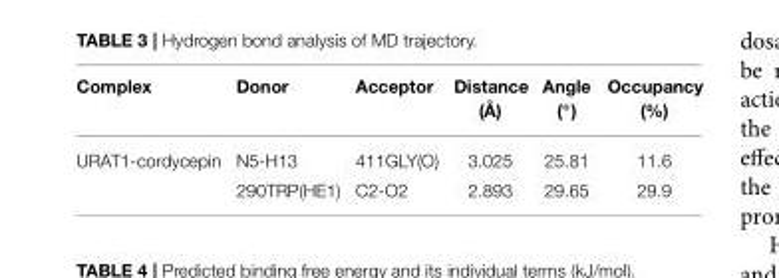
<table><thead><tr><td>Complex</td><td>Donor</td><td>Acceptor</td><td>Distance (Å)</td><td>Angle (◦)</td><td>Occupancy (%)</td></tr></thead><tbody><tr><td rowspan="2">URAT1-cordycepin</td><td>N5-H13</td><td>411GLY(O)</td><td>3.025</td><td>25.81</td><td>11.6</td></tr><tr><td>290TRP(HE1)</td><td>C2-O2</td><td>2.893</td><td>29.65</td><td>29.9</td></tr></tbody></table>